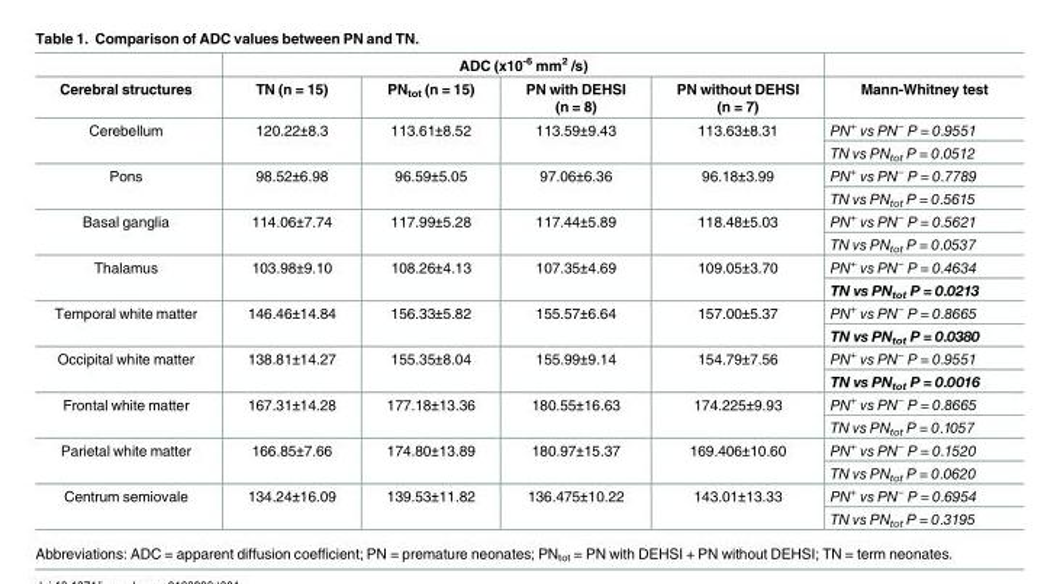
<table><thead><tr><td rowspan="2">Cerebral structures</td><td colspan="4">ADC (x10<sup>-6</sup> mm<sup>2</sup> /s)</td><td rowspan="2">Mann-Whitney test</td></tr><tr><td>TN (n = 15)</td><td>PN<sub>tot</sub> (n = 15)</td><td>PN with DEHSI (n = 8)</td><td>PN without DEHSI (n = 7)</td></tr></thead><tbody><tr><td rowspan="2">Cerebellum</td><td rowspan="2">120.22±8.3</td><td rowspan="2">113.61±8.52</td><td rowspan="2">113.59±9.43</td><td rowspan="2">113.63±8.31</td><td>PN<sup>+</sup> vs PN<sup>−</sup> P = 0.9551</td></tr><tr><td>TN vs PN<sub>tot</sub> P = 0.0512</td></tr><tr><td rowspan="2">Pons</td><td rowspan="2">98.52±6.98</td><td rowspan="2">96.59±5.05</td><td rowspan="2">97.06±6.36</td><td rowspan="2">96.18±3.99</td><td>PN<sup>+</sup> vs PN<sup>−</sup> P = 0.7789</td></tr><tr><td>TN vs PN<sub>tot</sub> P = 0.5615</td></tr><tr><td rowspan="2">Basal ganglia</td><td rowspan="2">114.06±7.74</td><td rowspan="2">117.99±5.28</td><td rowspan="2">117.44±5.89</td><td rowspan="2">118.48±5.03</td><td>PN<sup>+</sup> vs PN<sup>−</sup> P = 0.5621</td></tr><tr><td>TN vs PN<sub>tot</sub> P = 0.0537</td></tr><tr><td rowspan="2">Thalamus</td><td rowspan="2">103.98±9.10</td><td rowspan="2">108.26±4.13</td><td rowspan="2">107.35±4.69</td><td rowspan="2">109.05±3.70</td><td>PN<sup>+</sup> vs PN<sup>−</sup> P = 0.4634</td></tr><tr><td>TN vs PN<sub>tot</sub> P = 0.0213</td></tr><tr><td rowspan="2">Temporal white matter</td><td rowspan="2">146.46±14.84</td><td rowspan="2">156.33±5.82</td><td rowspan="2">155.57±6.64</td><td rowspan="2">157.00±5.37</td><td>PN<sup>+</sup> vs PN<sup>−</sup> P = 0.8665</td></tr><tr><td>TN vs PN<sub>tot</sub> P = 0.0380</td></tr><tr><td rowspan="2">Occipital white matter</td><td rowspan="2">138.81±14.27</td><td rowspan="2">155.35±8.04</td><td rowspan="2">155.99±9.14</td><td rowspan="2">154.79±7.56</td><td>PN<sup>+</sup> vs PN<sup>−</sup> P = 0.9551</td></tr><tr><td>TN vs PN<sub>tot</sub> P = 0.0016</td></tr><tr><td rowspan="2">Frontal white matter</td><td rowspan="2">167.31±14.28</td><td rowspan="2">177.18±13.36</td><td rowspan="2">180.55±16.63</td><td rowspan="2">174.225±9.93</td><td>PN<sup>+</sup> vs PN<sup>−</sup> P = 0.8665</td></tr><tr><td>TN vs PN<sub>tot</sub> P = 0.1057</td></tr><tr><td rowspan="2">Parietal white matter</td><td rowspan="2">166.85±7.66</td><td rowspan="2">174.80±13.89</td><td rowspan="2">180.97±15.37</td><td rowspan="2">169.406±10.60</td><td>PN<sup>+</sup> vs PN<sup>−</sup> P = 0.1520</td></tr><tr><td>TN vs PN<sub>tot</sub> P = 0.0620</td></tr><tr><td rowspan="2">Centrum semiovale</td><td rowspan="2">134.24±16.09</td><td rowspan="2">139.53±11.82</td><td rowspan="2">136.475±10.22</td><td rowspan="2">143.01±13.33</td><td>PN<sup>+</sup> vs PN<sup>−</sup> P = 0.6954</td></tr><tr><td>TN vs PN<sub>tot</sub> P = 0.3195</td></tr></tbody></table>